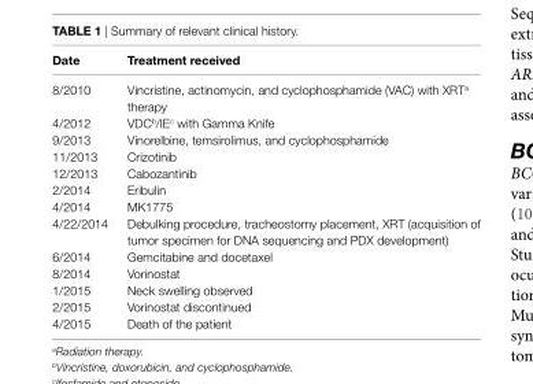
<table><thead><tr><td>Date</td><td>treatment received</td></tr></thead><tbody><tr><td>8/2010</td><td>Vincristine, actinomycin, and cyclophosphamide (VAC) with XRT<sup>a</sup> therapy</td></tr><tr><td>4/2012</td><td>VDC<sup>b</sup>/IE<sup>c</sup> with Gamma Knife</td></tr><tr><td>9/2013</td><td>Vinorelbine, temsirolimus, and cyclophosphamide</td></tr><tr><td>11/2013</td><td>Crizotinib</td></tr><tr><td>12/2013</td><td>Cabozantinib</td></tr><tr><td>2/2014</td><td>Eribulin</td></tr><tr><td>4/2014</td><td>MK1775</td></tr><tr><td>4/22/2014</td><td>Debulking procedure, tracheostomy placement, XRT (acquisition of tumor specimen for DNA sequencing and PDX development)</td></tr><tr><td>6/2014</td><td>Gemcitabine and docetaxel</td></tr><tr><td>8/2014</td><td>Vorinostat</td></tr><tr><td>1/2015</td><td>Neck swelling observed</td></tr><tr><td>2/2015</td><td>Vorinostat discontinued</td></tr><tr><td>4/2015</td><td>Death of the patient</td></tr></tbody></table>